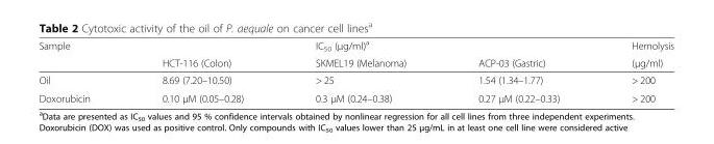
<table><thead><tr><td rowspan="2">Sample</td><td rowspan="2">HCT-116 (Colon)</td><td rowspan="2">IC<sub>50</sub> (μg/ml)<sup>a</sup> SKMEL19 (Melanoma)</td><td rowspan="2">ACP-03 (Gastric)</td><td rowspan="2">Hemolysis (μg/ml)</td></tr><tr></tr></thead><tbody><tr><td>Oil</td><td>8.69 (7.20–10.50)</td><td>&gt; 25</td><td>1.54 (1.34–1.77)</td><td>&gt; 200</td></tr><tr><td>Doxorubicin</td><td>0.10 μM (0.05–0.28)</td><td>0.3 μM (0.24–0.38)</td><td>0.27 μM (0.22–0.33)</td><td>&gt; 200</td></tr></tbody></table>